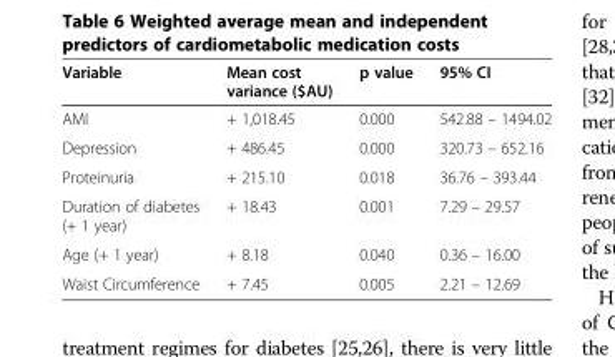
<table><thead><tr><td>Variable</td><td>Mean cost variance ($AU)</td><td>p value</td><td>95% CI</td></tr></thead><tbody><tr><td>AMI</td><td>+ 1,018.45</td><td>0.000</td><td>542.88 – 1494.02</td></tr><tr><td>Depression</td><td>+ 486.45</td><td>0.000</td><td>320.73 – 652.16</td></tr><tr><td>Proteinuria</td><td>+ 215.10</td><td>0.018</td><td>36.76 – 393.44</td></tr><tr><td>Duration of diabetes (+ 1 year)</td><td>+ 18.43</td><td>0.001</td><td>7.29 – 29.57</td></tr><tr><td>Age (+ 1 year)</td><td>+ 8.18</td><td>0.040</td><td>0.36 – 16.00</td></tr><tr><td>Waist Circumference</td><td>+ 7.45</td><td>0.005</td><td>2.21 – 12.69</td></tr></tbody></table>